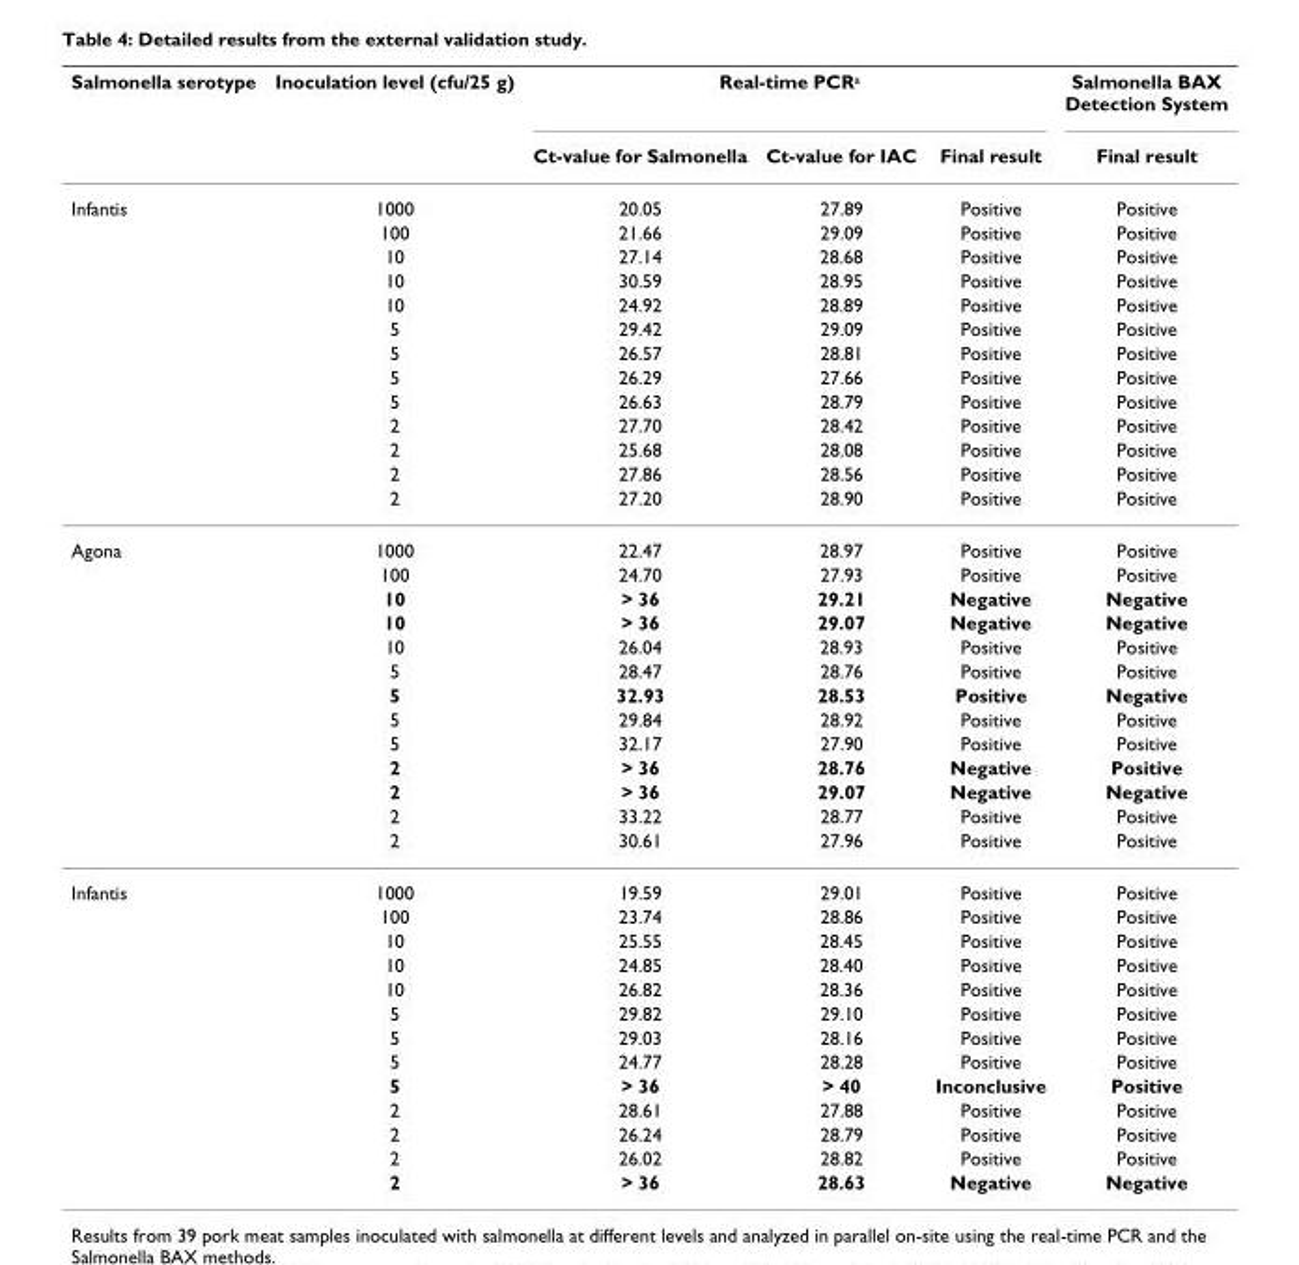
<table><thead><tr><td rowspan="2">Salmonella serotype</td><td rowspan="2">Inoculation level (cfu/25 g)</td><td colspan="3">Real-time PCR<sup>a</sup></td><td rowspan="2">Salmonella BAX Detection System Final result</td></tr><tr><td>Ct-value for Salmonella</td><td>Ct-value for IAC</td><td>Final result</td></tr></thead><tbody><tr><td rowspan="13">Infantis</td><td>1000</td><td>20.05</td><td>27.89</td><td>Positive</td><td>Positive</td></tr><tr><td>100</td><td>21.66</td><td>29.09</td><td>Positive</td><td>Positive</td></tr><tr><td>10</td><td>27.14</td><td>28.68</td><td>Positive</td><td>Positive</td></tr><tr><td>10</td><td>30.59</td><td>28.95</td><td>Positive</td><td>Positive</td></tr><tr><td>10</td><td>24.92</td><td>28.89</td><td>Positive</td><td>Positive</td></tr><tr><td>5</td><td>29.42</td><td>29.09</td><td>Positive</td><td>Positive</td></tr><tr><td>5</td><td>26.57</td><td>28.81</td><td>Positive</td><td>Positive</td></tr><tr><td>5</td><td>26.29</td><td>27.66</td><td>Positive</td><td>Positive</td></tr><tr><td>5</td><td>26.63</td><td>28.79</td><td>Positive</td><td>Positive</td></tr><tr><td>2</td><td>27.70</td><td>28.42</td><td>Positive</td><td>Positive</td></tr><tr><td>2</td><td>25.68</td><td>28.08</td><td>Positive</td><td>Positive</td></tr><tr><td>2</td><td>27.86</td><td>28.56</td><td>Positive</td><td>Positive</td></tr><tr><td>2</td><td>27.20</td><td>28.90</td><td>Positive</td><td>Positive</td></tr><tr><td rowspan="13">Agona</td><td>1000</td><td>22.47</td><td>28.97</td><td>Positive</td><td>Positive</td></tr><tr><td>100</td><td>24.70</td><td>27.93</td><td>Positive</td><td>Positive</td></tr><tr><td>10</td><td>&gt; 36</td><td>29.21</td><td>Negative</td><td>Negative</td></tr><tr><td>10</td><td>&gt; 36</td><td>29.07</td><td>Negative</td><td>Negative</td></tr><tr><td>10</td><td>26.04</td><td>28.93</td><td>Positive</td><td>Positive</td></tr><tr><td>5</td><td>28.47</td><td>28.76</td><td>Positive</td><td>Positive</td></tr><tr><td>5</td><td>32.93</td><td>28.53</td><td>Positive</td><td>Negative</td></tr><tr><td>5</td><td>29.84</td><td>28.92</td><td>Positive</td><td>Positive</td></tr><tr><td>5</td><td>32.17</td><td>27.90</td><td>Positive</td><td>Positive</td></tr><tr><td>2</td><td>&gt; 36</td><td>28.76</td><td>Negative</td><td>Positive</td></tr><tr><td>2</td><td>&gt; 36</td><td>29.07</td><td>Negative</td><td>Negative</td></tr><tr><td>2</td><td>33.22</td><td>28.77</td><td>Positive</td><td>Positive</td></tr><tr><td>2</td><td>30.61</td><td>27.96</td><td>Positive</td><td>Positive</td></tr><tr><td rowspan="13">Infantis</td><td>1000</td><td>19.59</td><td>29.01</td><td>Positive</td><td>Positive</td></tr><tr><td>100</td><td>23.74</td><td>28.86</td><td>Positive</td><td>Positive</td></tr><tr><td>10</td><td>25.55</td><td>28.45</td><td>Positive</td><td>Positive</td></tr><tr><td>10</td><td>24.85</td><td>28.40</td><td>Positive</td><td>Positive</td></tr><tr><td>10</td><td>26.82</td><td>28.36</td><td>Positive</td><td>Positive</td></tr><tr><td>5</td><td>29.82</td><td>29.10</td><td>Positive</td><td>Positive</td></tr><tr><td>5</td><td>29.03</td><td>28.16</td><td>Positive</td><td>Positive</td></tr><tr><td>5</td><td>24.77</td><td>28.28</td><td>Positive</td><td>Positive</td></tr><tr><td>5</td><td>&gt; 36</td><td>&gt; 40</td><td>Inconclusive</td><td>Positive</td></tr><tr><td>2</td><td>28.61</td><td>27.88</td><td>Positive</td><td>Positive</td></tr><tr><td>2</td><td>26.24</td><td>28.79</td><td>Positive</td><td>Positive</td></tr><tr><td>2</td><td>26.02</td><td>28.82</td><td>Positive</td><td>Positive</td></tr><tr><td>2</td><td>&gt; 36</td><td>28.63</td><td>Negative</td><td>Negative</td></tr></tbody></table>